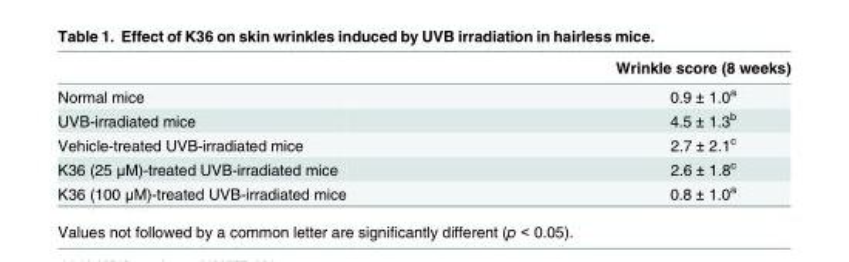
<table><thead><tr><td></td><td>Wrinkle score (8 weeks)</td></tr></thead><tbody><tr><td>Normal mice</td><td>0.9 ± 1.0<sup>a</sup></td></tr><tr><td>UVB-irradiated mice</td><td>4.5 ± 1.3<sup>b</sup></td></tr><tr><td>Vehicle-treated UVB-irradiated mice</td><td>2.7 ± 2.1<sup>c</sup></td></tr><tr><td>K36 (25 μM)-treated UVB-irradiated mice</td><td>2.6 ± 1.8<sup>c</sup></td></tr><tr><td>K36 (100 μM)-treated UVB-irradiated mice</td><td>0.8 ± 1.0<sup>a</sup></td></tr></tbody></table>